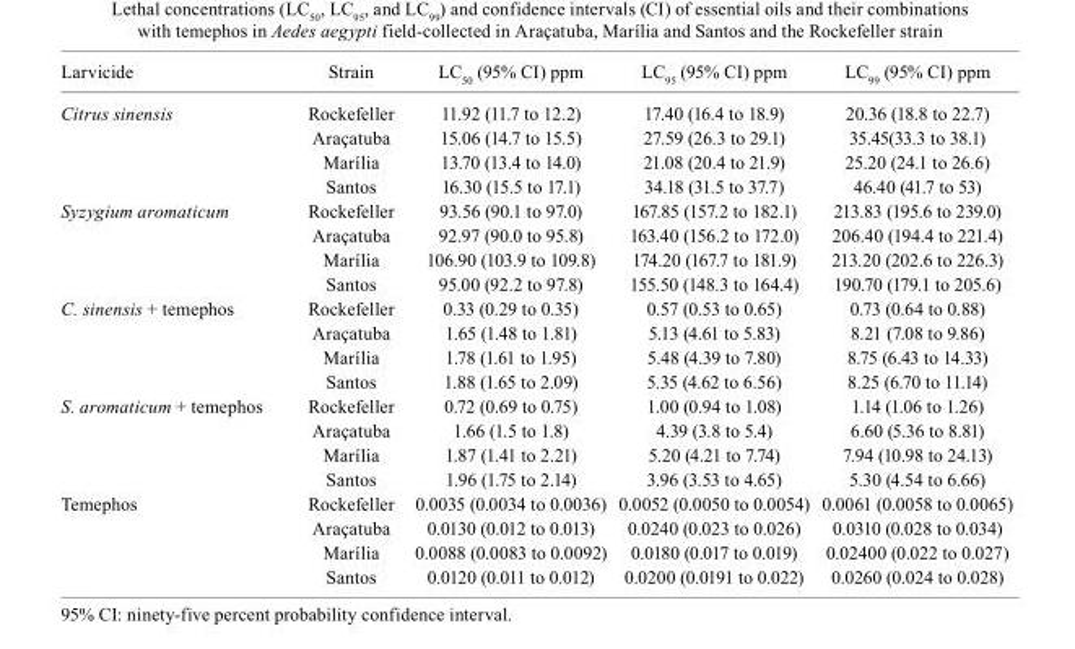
<table><thead><tr><td>Larvicide</td><td>Strain</td><td>LC<sub>50</sub> (95% CI) ppm</td><td>LC<sub>95</sub> (95% CI) ppm</td><td>LC<sub>99</sub> (95% CI) ppm</td></tr></thead><tbody><tr><td rowspan="4">Citrus sinensis</td><td>Rockefeller</td><td>11.92 (11.7 to 12.2)</td><td>17.40 (16.4 to 18.9)</td><td>20.36 (18.8 to 22.7)</td></tr><tr><td>Araçatuba</td><td>15.06 (14.7 to 15.5)</td><td>27.59 (26.3 to 29.1)</td><td>35.45(33.3 to 38.1)</td></tr><tr><td>Marília</td><td>13.70 (13.4 to 14.0)</td><td>21.08 (20.4 to 21.9)</td><td>25.20 (24.1 to 26.6)</td></tr><tr><td>Santos</td><td>16.30 (15.5 to 17.1)</td><td>34.18 (31.5 to 37.7)</td><td>46.40 (41.7 to 53)</td></tr><tr><td rowspan="4">Syzygium aromaticum</td><td>Rockefeller</td><td>93.56 (90.1 to 97.0)</td><td>167.85 (157.2 to 182.1)</td><td>213.83 (195.6 to 239.0)</td></tr><tr><td>Araçatuba</td><td>92.97 (90.0 to 95.8)</td><td>163.40 (156.2 to 172.0)</td><td>206.40 (194.4 to 221.4)</td></tr><tr><td>Marília</td><td>106.90 (103.9 to 109.8)</td><td>174.20 (167.7 to 181.9)</td><td>213.20 (202.6 to 226.3)</td></tr><tr><td>Santos</td><td>95.00 (92.2 to 97.8)</td><td>155.50 (148.3 to 164.4)</td><td>190.70 (179.1 to 205.6)</td></tr><tr><td rowspan="4">C. sinensis + temephos</td><td>Rockefeller</td><td>0.33 (0.29 to 0.35)</td><td>0.57 (0.53 to 0.65)</td><td>0.73 (0.64 to 0.88)</td></tr><tr><td>Araçatuba</td><td>1.65 (1.48 to 1.81)</td><td>5.13 (4.61 to 5.83)</td><td>8.21 (7.08 to 9.86)</td></tr><tr><td>Marília</td><td>1.78 (1.61 to 1.95)</td><td>5.48 (4.39 to 7.80)</td><td>8.75 (6.43 to 14.33)</td></tr><tr><td>Santos</td><td>1.88 (1.65 to 2.09)</td><td>5.35 (4.62 to 6.56)</td><td>8.25 (6.70 to 11.14)</td></tr><tr><td rowspan="4">S. aromaticum + temephos</td><td>Rockefeller</td><td>0.72 (0.69 to 0.75)</td><td>1.00 (0.94 to 1.08)</td><td>1.14 (1.06 to 1.26)</td></tr><tr><td>Araçatuba</td><td>1.66 (1.5 to 1.8)</td><td>4.39 (3.8 to 5.4)</td><td>6.60 (5.36 to 8.81)</td></tr><tr><td>Marília</td><td>1.87 (1.41 to 2.21)</td><td>5.20 (4.21 to 7.74)</td><td>7.94 (10.98 to 24.13)</td></tr><tr><td>Santos</td><td>1.96 (1.75 to 2.14)</td><td>3.96 (3.53 to 4.65)</td><td>5.30 (4.54 to 6.66)</td></tr><tr><td rowspan="4">Temephos</td><td>Rockefeller</td><td>0.0035 (0.0034 to 0.0036)</td><td>0.0052 (0.0050 to 0.0054)</td><td>0.0061 (0.0058 to 0.0065)</td></tr><tr><td>Araçatuba</td><td>0.0130 (0.012 to 0.013)</td><td>0.0240 (0.023 to 0.026)</td><td>0.0310 (0.028 to 0.034)</td></tr><tr><td>Marília</td><td>0.0088 (0.0083 to 0.0092)</td><td>0.0180 (0.017 to 0.019)</td><td>0.02400 (0.022 to 0.027)</td></tr><tr><td>Santos</td><td>0.0120 (0.011 to 0.012)</td><td>0.0200 (0.0191 to 0.022)</td><td>0.0260 (0.024 to 0.028)</td></tr></tbody></table>